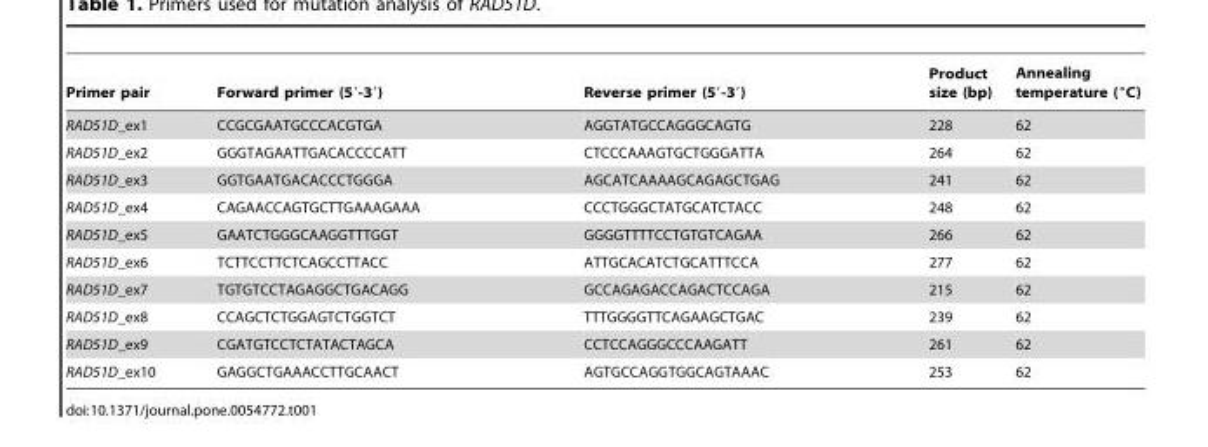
<table><thead><tr><td>Primer pair</td><td>Forward primer (5′-3′)</td><td>Reverse primer (5′-3′)</td><td>Product size (bp)</td><td>Annealing temperature (°C)</td></tr></thead><tbody><tr><td>RAD51D_ex1</td><td>CCGCGAATGCCCACGTGA</td><td>AGGTATGCCAGGGCAGTG</td><td>228</td><td>62</td></tr><tr><td>RAD51D_ex2</td><td>GGGTAGAATTGACACCCCATT</td><td>CTCCCAAAGTGCTGGGATTA</td><td>264</td><td>62</td></tr><tr><td>RAD51D_ex3</td><td>GGTGAATGACACCCTGGGA</td><td>AGCATCAAAAGCAGAGCTGAG</td><td>241</td><td>62</td></tr><tr><td>RAD51D_ex4</td><td>CAGAACCAGTGCTTGAAAGAAA</td><td>CCCTGGGCTATGCATCTACC</td><td>248</td><td>62</td></tr><tr><td>RAD51D_ex5</td><td>GAATCTGGGCAAGGTTTGGT</td><td>GGGGTTTTCCTGTGTCAGAA</td><td>266</td><td>62</td></tr><tr><td>RAD51D_ex6</td><td>TCTTCCTTCTCAGCCTTACC</td><td>ATTGCACATCTGCATTTCCA</td><td>277</td><td>62</td></tr><tr><td>RAD51D_ex7</td><td>TGTGTCCTAGAGGCTGACAGG</td><td>GCCAGAGACCAGACTCCAGA</td><td>215</td><td>62</td></tr><tr><td>RAD51D_ex8</td><td>CCAGCTCTGGAGTCTGGTCT</td><td>TTTGGGGTTCAGAAGCTGAC</td><td>239</td><td>62</td></tr><tr><td>RAD51D_ex9</td><td>CGATGTCCTCTATACTAGCA</td><td>CCTCCAGGGCCCAAGATT</td><td>261</td><td>62</td></tr><tr><td>RAD51D_ex10</td><td>GAGGCTGAAACCTTGCAACT</td><td>AGTGCCAGGTGGCAGTAAAC</td><td>253</td><td>62</td></tr></tbody></table>